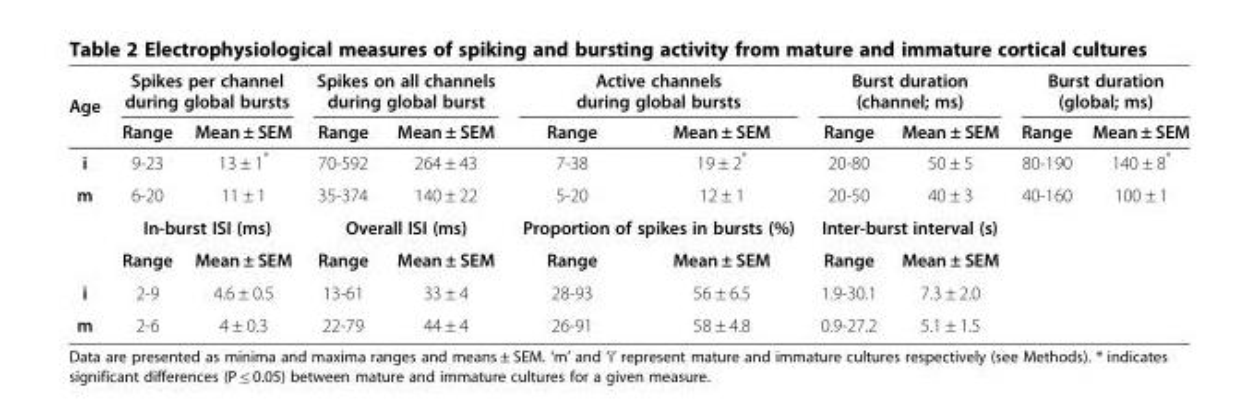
<table><thead><tr><td rowspan="2">Age</td><td colspan="2">Spikes per channel during global bursts</td><td colspan="2">Spikes on all channels during global burst</td><td colspan="2">Active channels during global bursts</td><td colspan="2">Burst duration (channel; ms)</td><td colspan="2">Burst duration (global; ms)</td></tr><tr><td>Range</td><td>Mean ± SEM</td><td>Range</td><td>Mean ± SEM</td><td>Range</td><td>Mean ± SEM</td><td>Range</td><td>Mean ± SEM</td><td>Range</td><td>Mean ± SEM</td></tr></thead><tbody><tr><td>i</td><td>9-23</td><td>13 ± 1*</td><td>70-592</td><td>264 ± 43</td><td>7-38</td><td>19 ± 2*</td><td>20-80</td><td>50 ± 5</td><td>80-190</td><td>140 ± 8*</td></tr><tr><td rowspan="3">m</td><td>6-20</td><td>11 ± 1</td><td>35-374</td><td>140 ± 22</td><td>5-20</td><td>12 ± 1</td><td>20-50</td><td>40 ± 3</td><td>40-160</td><td>100 ± 1</td></tr><tr><td colspan="2">In-burst ISI (ms)</td><td colspan="2">Overall ISI (ms)</td><td colspan="2">Proportion of spikes in bursts (%)</td><td colspan="2">Inter-burst interval (s)</td><td colspan="2"></td></tr><tr><td>Range</td><td>Mean ± SEM</td><td>Range</td><td>Mean ± SEM</td><td>Range</td><td>Mean ± SEM</td><td>Range</td><td>Mean ± SEM</td><td></td><td></td></tr><tr><td>i</td><td>2-9</td><td>4.6 ± 0.5</td><td>13-61</td><td>33 ± 4</td><td>28-93</td><td>56 ± 6.5</td><td>1.9-30.1</td><td>7.3 ± 2.0</td><td></td><td></td></tr><tr><td>m</td><td>2-6</td><td>4 ± 0.3</td><td>22-79</td><td>44 ± 4</td><td>26-91</td><td>58 ± 4.8</td><td>0.9-27.2</td><td>5.1 ± 1.5</td><td></td><td></td></tr></tbody></table>